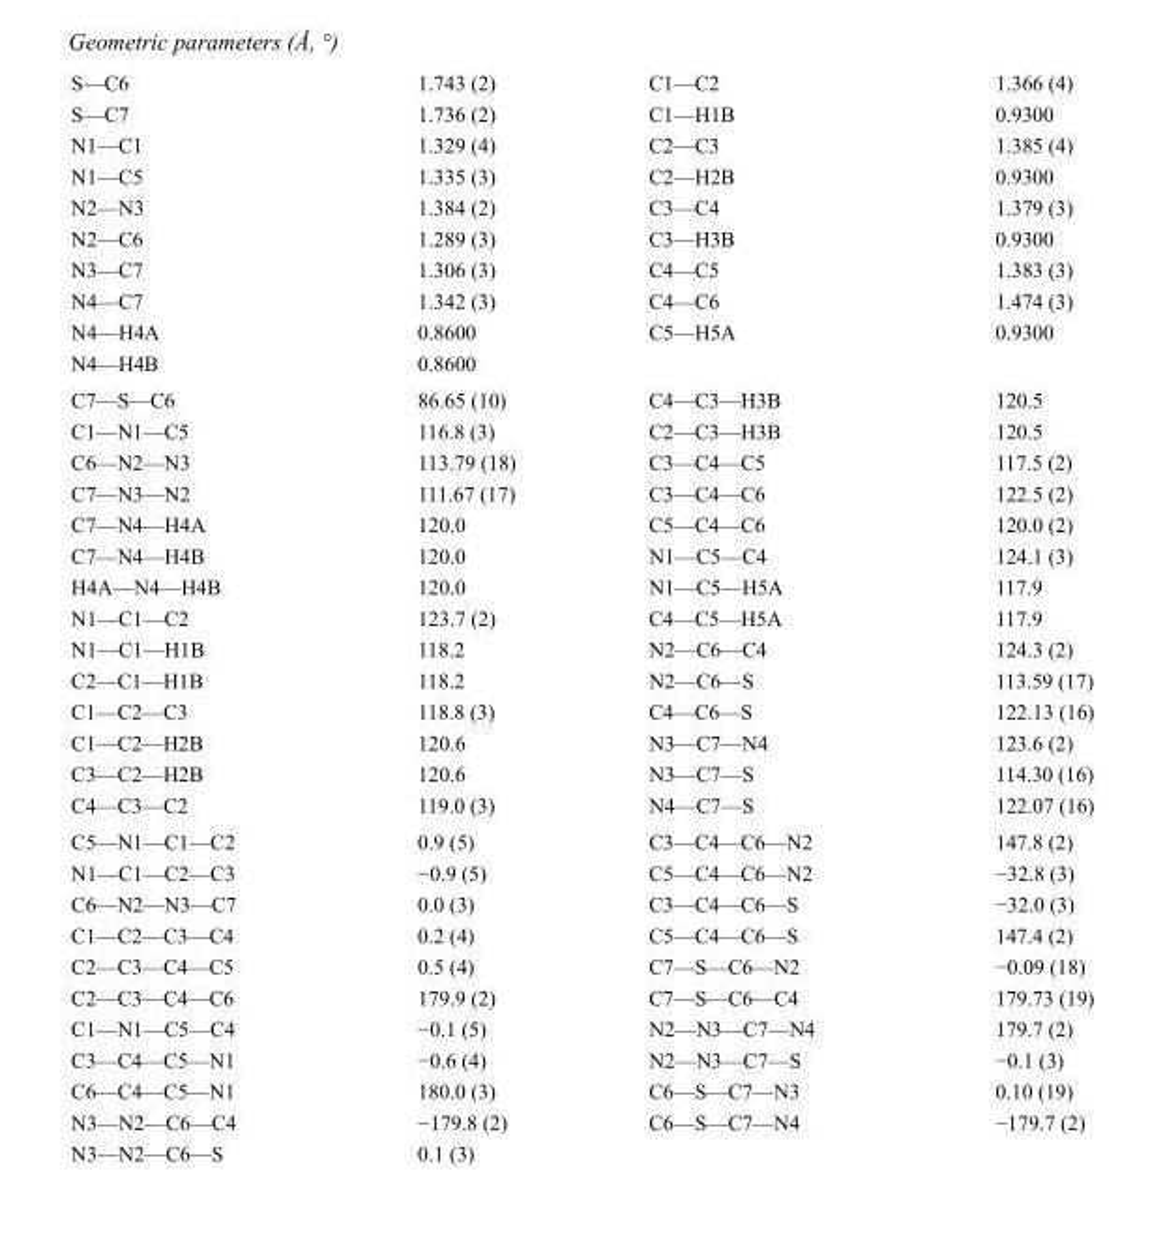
<table><tbody><tr><td>S—C6</td><td>1.743 (2)</td><td>C1—C2</td><td>1.366 (4)</td></tr><tr><td>S—C7</td><td>1.736 (2)</td><td>C1—H1B</td><td>0.9300</td></tr><tr><td>N1—C1</td><td>1.329 (4)</td><td>C2—C3</td><td>1.385 (4)</td></tr><tr><td>N1—C5</td><td>1.335 (3)</td><td>C2—H2B</td><td>0.9300</td></tr><tr><td>N2—N3</td><td>1.384 (2)</td><td>C3—C4</td><td>1.379 (3)</td></tr><tr><td>N2—C6</td><td>1.289 (3)</td><td>C3—H3B</td><td>0.9300</td></tr><tr><td>N3—C7</td><td>1.306 (3)</td><td>C4—C5</td><td>1.383 (3)</td></tr><tr><td>N4—C7</td><td>1.342 (3)</td><td>C4—C6</td><td>1.474 (3)</td></tr><tr><td>N4—H4A</td><td>0.8600</td><td>C5—H5A</td><td>0.9300</td></tr><tr><td>N4—H4B</td><td>0.8600</td><td></td><td></td></tr><tr><td>C7—S—C6</td><td>86.65 (10)</td><td>C4—C3—H3B</td><td>120.5</td></tr><tr><td>C1—N1—C5</td><td>116.8 (3)</td><td>C2—C3—H3B</td><td>120.5</td></tr><tr><td>C6—N2—N3</td><td>113.79 (18)</td><td>C3—C4—C5</td><td>117.5 (2)</td></tr><tr><td>C7—N3—N2</td><td>111.67 (17)</td><td>C3—C4—C6</td><td>122.5 (2)</td></tr><tr><td>C7—N4—H4A</td><td>120.0</td><td>C5—C4—C6</td><td>120.0 (2)</td></tr><tr><td>C7—N4—H4B</td><td>120.0</td><td>N1—C5—C4</td><td>124.1 (3)</td></tr><tr><td>H4A—N4—H4B</td><td>120.0</td><td>N1—C5—H5A</td><td>117.9</td></tr><tr><td>N1—C1—C2</td><td>123.7 (2)</td><td>C4—C5—H5A</td><td>117.9</td></tr><tr><td>N1—C1—H1B</td><td>118.2</td><td>N2—C6—C4</td><td>124.3 (2)</td></tr><tr><td>C2—C1—H1B</td><td>118.2</td><td>N2—C6—S</td><td>113.59 (17)</td></tr><tr><td>C1—C2—C3</td><td>118.8 (3)</td><td>C4—C6—S</td><td>122.13 (16)</td></tr><tr><td>C1—C2—H2B</td><td>120.6</td><td>N3—C7—N4</td><td>123.6 (2)</td></tr><tr><td>C3—C2—H2B</td><td>120.6</td><td>N3—C7—S</td><td>114.30 (16)</td></tr><tr><td>C4—C3—C2</td><td>119.0 (3)</td><td>N4—C7—S</td><td>122.07 (16)</td></tr><tr><td>C5—N1—C1—C2</td><td>0.9 (5)</td><td>C3—C4—C6—N2</td><td>147.8 (2)</td></tr><tr><td>N1—C1—C2—C3</td><td>−0.9 (5)</td><td>C5—C4—C6—N2</td><td>−32.8 (3)</td></tr><tr><td>C6—N2—N3—C7</td><td>0.0 (3)</td><td>C3—C4—C6—S</td><td>−32.0 (3)</td></tr><tr><td>C1—C2—C3—C4</td><td>0.2 (4)</td><td>C5—C4—C6—S</td><td>147.4 (2)</td></tr><tr><td>C2—C3—C4—C5</td><td>0.5 (4)</td><td>C7—S—C6—N2</td><td>−0.09 (18)</td></tr><tr><td>C2—C3—C4—C6</td><td>179.9 (2)</td><td>C7—S—C6—C4</td><td>179.73 (19)</td></tr><tr><td>C1—N1—C5—C4</td><td>−0.1 (5)</td><td>N2—N3—C7—N4</td><td>179.7 (2)</td></tr><tr><td>C3—C4—C5—N1</td><td>−0.6 (4)</td><td>N2—N3—C7—S</td><td>−0.1 (3)</td></tr><tr><td>C6—C4—C5—N1</td><td>180.0 (3)</td><td>C6—S—C7—N3</td><td>0.10 (19)</td></tr><tr><td>N3—N2—C6—C4</td><td>−179.8 (2)</td><td>C6—S—C7—N4</td><td>−179.7 (2)</td></tr><tr><td>N3—N2—C6—S</td><td>0.1 (3)</td><td></td><td></td></tr></tbody></table>